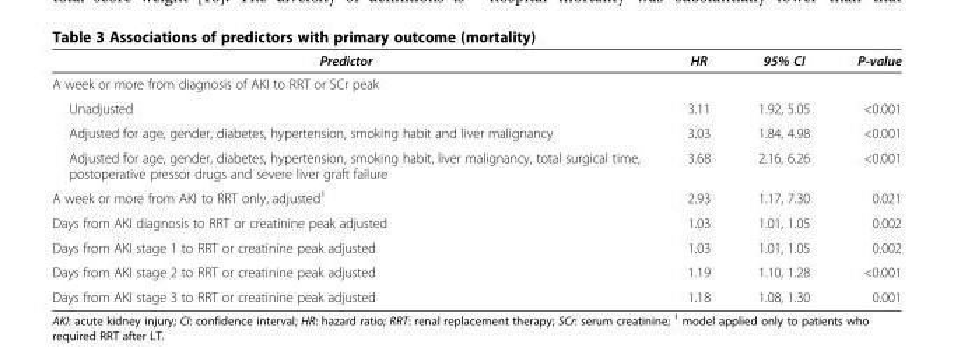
<table><thead><tr><td>Predictor</td><td>HR</td><td>95% CI</td><td>P-value</td></tr></thead><tbody><tr><td colspan="4">A week or more from diagnosis of AKI to RRT or SCr peak</td></tr><tr><td>Unadjusted</td><td>3.11</td><td>1.92, 5.05</td><td>&lt;0.001</td></tr><tr><td>Adjusted for age, gender, diabetes, hypertension, smoking habit and liver malignancy</td><td>3.03</td><td>1.84, 4.98</td><td>&lt;0.001</td></tr><tr><td>Adjusted for age, gender, diabetes, hypertension, smoking habit, liver malignancy, total surgical time, postoperative pressor drugs and severe liver graft failure</td><td>3.68</td><td>2.16, 6.26</td><td>&lt;0.001</td></tr><tr><td>A week or more from AKI to RRT only, adjusted<sup>1</sup></td><td>2.93</td><td>1.17, 7.30</td><td>0.021</td></tr><tr><td>Days from AKI diagnosis to RRT or creatinine peak adjusted</td><td>1.03</td><td>1.01, 1.05</td><td>0.002</td></tr><tr><td>Days from AKI stage 1 to RRT or creatinine peak adjusted</td><td>1.03</td><td>1.01, 1.05</td><td>0.002</td></tr><tr><td>Days from AKI stage 2 to RRT or creatinine peak adjusted</td><td>1.19</td><td>1.10, 1.28</td><td>&lt;0.001</td></tr><tr><td>Days from AKI stage 3 to RRT or creatinine peak adjusted</td><td>1.18</td><td>1.08, 1.30</td><td>0.001</td></tr></tbody></table>